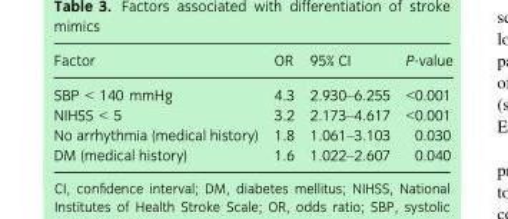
<table><thead><tr><td>Factor</td><td>OR</td><td>95% CI</td><td>P-value</td></tr></thead><tbody><tr><td>SBP &lt; 140 mmHg</td><td>4.3</td><td>2.930–6.255</td><td>&lt;0.001</td></tr><tr><td>NIHSS &lt; 5</td><td>3.2</td><td>2.173–4.617</td><td>&lt;0.001</td></tr><tr><td>No arrhythmia (medical history)</td><td>1.8</td><td>1.061–3.103</td><td>0.030</td></tr><tr><td>DM (medical history)</td><td>1.6</td><td>1.022–2.607</td><td>0.040</td></tr></tbody></table>